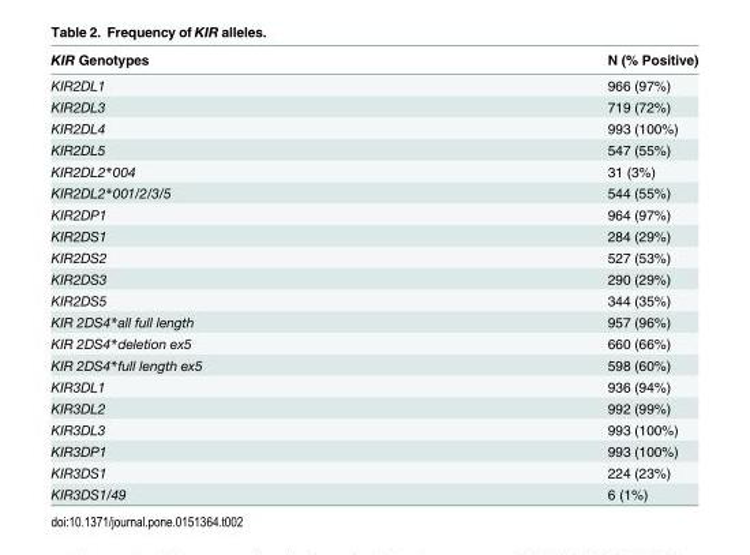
<table><thead><tr><td>KIR Genotypes</td><td>N (% Positive)</td></tr></thead><tbody><tr><td>KIR2DL1</td><td>966 (97%)</td></tr><tr><td>KIR2DL3</td><td>719 (72%)</td></tr><tr><td>KIR2DL4</td><td>993 (100%)</td></tr><tr><td>KIR2DL5</td><td>547 (55%)</td></tr><tr><td>KIR2DL2*004</td><td>31 (3%)</td></tr><tr><td>KIR2DL2*001/2/3/5</td><td>544 (55%)</td></tr><tr><td>KIR2DP1</td><td>964 (97%)</td></tr><tr><td>KIR2DS1</td><td>284 (29%)</td></tr><tr><td>KIR2DS2</td><td>527 (53%)</td></tr><tr><td>KIR2DS3</td><td>290 (29%)</td></tr><tr><td>KIR2DS5</td><td>344 (35%)</td></tr><tr><td>KIR 2DS4*all full length</td><td>957 (96%)</td></tr><tr><td>KIR 2DS4*deletion ex5</td><td>660 (66%)</td></tr><tr><td>KIR 2DS4*full length ex5</td><td>598 (60%)</td></tr><tr><td>KIR3DL1</td><td>936 (94%)</td></tr><tr><td>KIR3DL2</td><td>992 (99%)</td></tr><tr><td>KIR3DL3</td><td>993 (100%)</td></tr><tr><td>KIR3DP1</td><td>993 (100%)</td></tr><tr><td>KIR3DS1</td><td>224 (23%)</td></tr><tr><td>KIR3DS1/49</td><td>6 (1%)</td></tr></tbody></table>